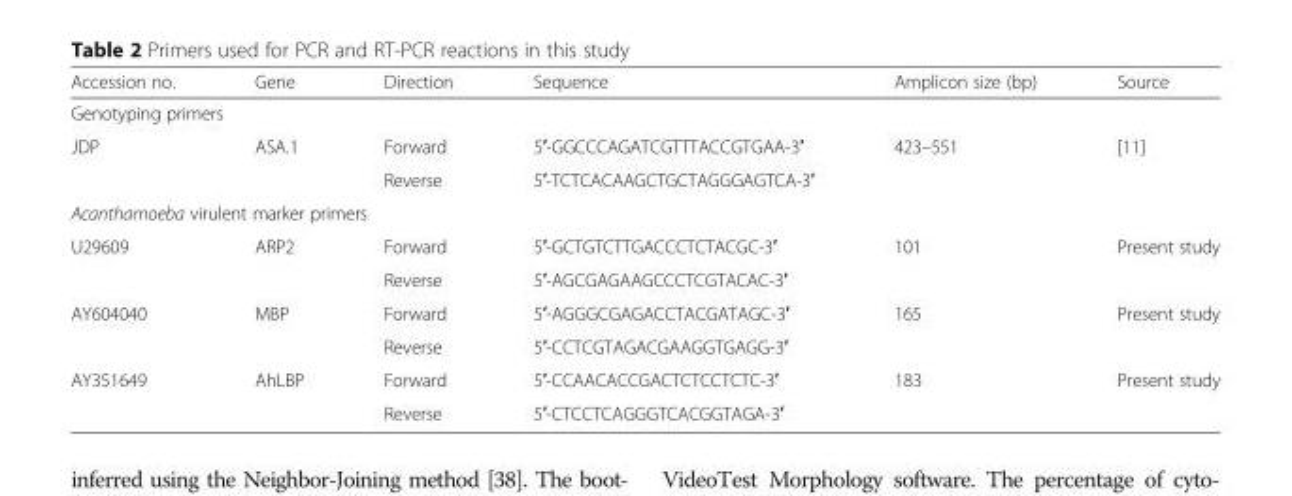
<table><thead><tr><td>Accession no.</td><td>Gene</td><td>Direction</td><td>Sequence</td><td>Amplicon size (bp)</td><td>Source</td></tr></thead><tbody><tr><td colspan="6">Genotyping primers</td></tr><tr><td rowspan="2">JDP</td><td rowspan="2">ASA.1</td><td>Forward</td><td>5′-GGCCCAGATCGTTTACCGTGAA-3′</td><td rowspan="2">423–551</td><td rowspan="2">[11]</td></tr><tr><td>Reverse</td><td>5′-TCTCACAAGCTGCTAGGGAGTCA-3′</td></tr><tr><td colspan="6">Acanthamoeba virulent marker primers</td></tr><tr><td rowspan="2">U29609</td><td rowspan="2">ARP2</td><td>Forward</td><td>5′-GCTGTCTTGACCCTCTACGC-3′</td><td rowspan="2">101</td><td rowspan="2">Present study</td></tr><tr><td>Reverse</td><td>5′-AGCGAGAAGCCCTCGTACAC-3′</td></tr><tr><td rowspan="2">AY604040</td><td rowspan="2">MBP</td><td>Forward</td><td>5′-AGGGCGAGACCTACGATAGC-3′</td><td rowspan="2">165</td><td rowspan="2">Present study</td></tr><tr><td>Reverse</td><td>5′-CCTCGTAGACGAAGGTGAGG-3′</td></tr><tr><td rowspan="2">AY351649</td><td rowspan="2">AhLBP</td><td>Forward</td><td>5′-CCAACACCGACTCTCCTCTC-3′</td><td rowspan="2">183</td><td rowspan="2">Present study</td></tr><tr><td>Reverse</td><td>5′-CTCCTCAGGGTCACGGTAGA-3′</td></tr></tbody></table>